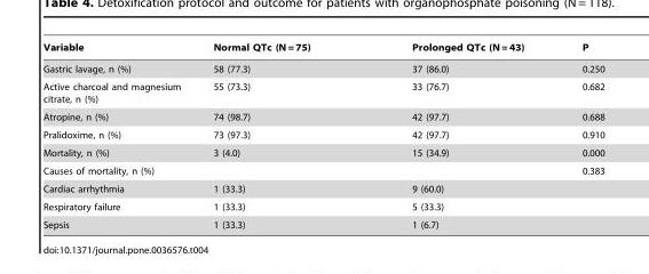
<table><thead><tr><td>Variable</td><td>Normal QTc (N = 75)</td><td>Prolonged QTc (N = 43)</td><td>P</td></tr></thead><tbody><tr><td>Gastric lavage, n (%)</td><td>58 (77.3)</td><td>37 (86.0)</td><td>0.250</td></tr><tr><td>Active charcoal and magnesium citrate, n (%)</td><td>55 (73.3)</td><td>33 (76.7)</td><td>0.682</td></tr><tr><td>Atropine, n (%)</td><td>74 (98.7)</td><td>42 (97.7)</td><td>0.688</td></tr><tr><td>Pralidoxime, n (%)</td><td>73 (97.3)</td><td>42 (97.7)</td><td>0.910</td></tr><tr><td>Mortality, n (%)</td><td>3 (4.0)</td><td>15 (34.9)</td><td>0.000</td></tr><tr><td>Causes of mortality, n (%)</td><td></td><td></td><td>0.383</td></tr><tr><td>Cardiac arrhythmia</td><td>1 (33.3)</td><td>9 (60.0)</td><td></td></tr><tr><td>Respiratory failure</td><td>1 (33.3)</td><td>5 (33.3)</td><td></td></tr><tr><td>Sepsis</td><td>1 (33.3)</td><td>1 (6.7)</td><td></td></tr></tbody></table>